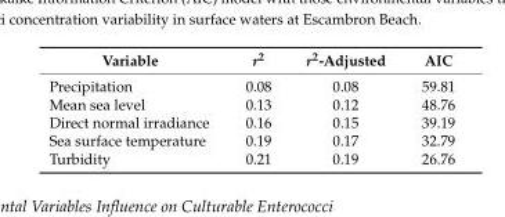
<table><thead><tr><td>Variable</td><td>r<sup>2</sup></td><td>r<sup>2</sup>-Adjusted</td><td>AIC</td></tr></thead><tbody><tr><td>Precipitation</td><td>0.08</td><td>0.08</td><td>59.81</td></tr><tr><td>Mean sea level</td><td>0.13</td><td>0.12</td><td>48.76</td></tr><tr><td>Direct normal irradiance</td><td>0.16</td><td>0.15</td><td>39.19</td></tr><tr><td>Sea surface temperature</td><td>0.19</td><td>0.17</td><td>32.79</td></tr><tr><td>Turbidity</td><td>0.21</td><td>0.19</td><td>26.76</td></tr></tbody></table>